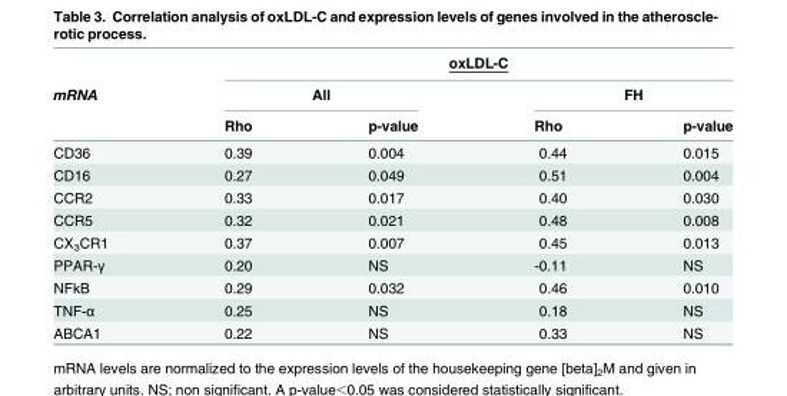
<table><thead><tr><td rowspan="3">mRNA</td><td colspan="4">oxLDL-C</td></tr><tr><td colspan="2">All</td><td colspan="2">FH</td></tr><tr><td>Rho</td><td>p-value</td><td>Rho</td><td>p-value</td></tr></thead><tbody><tr><td>CD36</td><td>0.39</td><td>0.004</td><td>0.44</td><td>0.015</td></tr><tr><td>CD16</td><td>0.27</td><td>0.049</td><td>0.51</td><td>0.004</td></tr><tr><td>CCR2</td><td>0.33</td><td>0.017</td><td>0.40</td><td>0.030</td></tr><tr><td>CCR5</td><td>0.32</td><td>0.021</td><td>0.48</td><td>0.008</td></tr><tr><td>CX<sub>3</sub>CR1</td><td>0.37</td><td>0.007</td><td>0.45</td><td>0.013</td></tr><tr><td>PPAR-γ</td><td>0.20</td><td>NS</td><td>-0.11</td><td>NS</td></tr><tr><td>NFkB</td><td>0.29</td><td>0.032</td><td>0.46</td><td>0.010</td></tr><tr><td>TNF-α</td><td>0.25</td><td>NS</td><td>0.18</td><td>NS</td></tr><tr><td>ABCA1</td><td>0.22</td><td>NS</td><td>0.33</td><td>NS</td></tr></tbody></table>